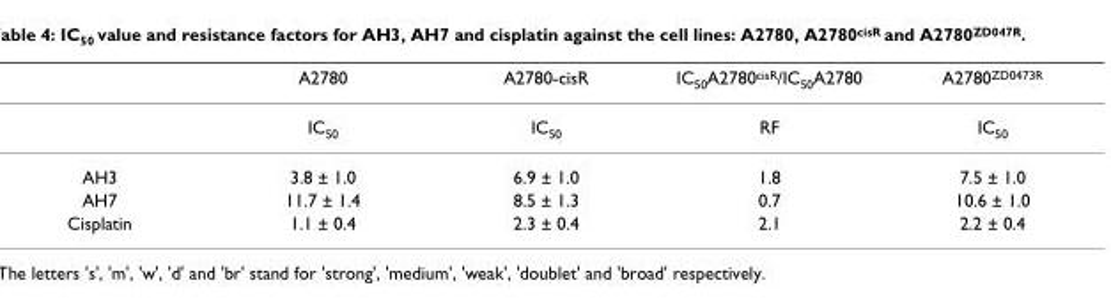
<table><thead><tr><td></td><td>A2780</td><td>A2780-cisR</td><td>IC<sub>50</sub>A2780<sup>cisR</sup>/IC<sub>50</sub>A2780</td><td>A2780<sup>ZD0473R</sup></td></tr></thead><tbody><tr><td></td><td>IC<sub>50</sub></td><td>IC<sub>50</sub></td><td>RF</td><td>IC<sub>50</sub></td></tr><tr><td>AH3</td><td>3.8 ± 1.0</td><td>6.9 ± 1.0</td><td>1.8</td><td>7.5 ± 1.0</td></tr><tr><td>AH7</td><td>11.7 ± 1.4</td><td>8.5 ± 1.3</td><td>0.7</td><td>10.6 ± 1.0</td></tr><tr><td>Cisplatin</td><td>1.1 ± 0.4</td><td>2.3 ± 0.4</td><td>2.1</td><td>2.2 ± 0.4</td></tr></tbody></table>